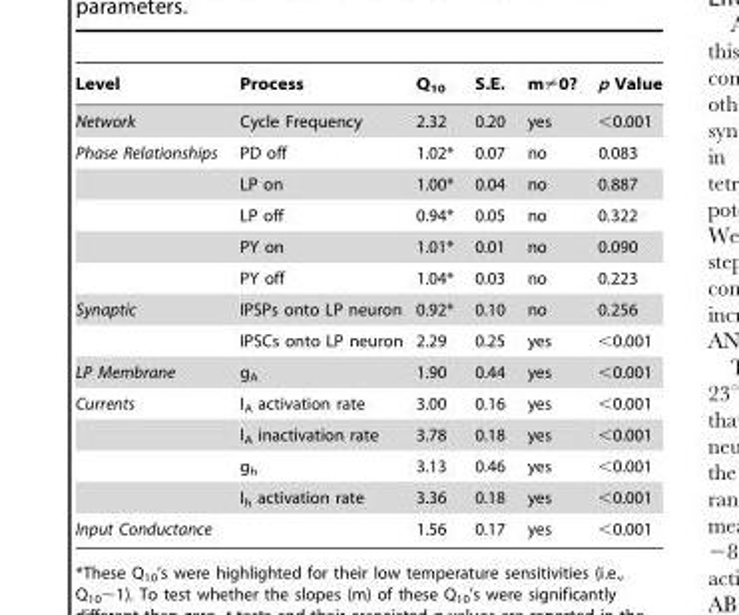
<table><thead><tr><td>Level</td><td>Process</td><td>Q<sub>10</sub></td><td>S.E.</td><td>m≠0?</td><td>p Value</td></tr></thead><tbody><tr><td>Network</td><td>Cycle Frequency</td><td>2.32</td><td>0.20</td><td>yes</td><td>&lt;0.001</td></tr><tr><td rowspan="5">Phase Relationships</td><td>PD off</td><td>1.02*</td><td>0.07</td><td>no</td><td>0.083</td></tr><tr><td>LP on</td><td>1.00*</td><td>0.04</td><td>no</td><td>0.887</td></tr><tr><td>LP off</td><td>0.94*</td><td>0.05</td><td>no</td><td>0.322</td></tr><tr><td>PY on</td><td>1.01*</td><td>0.01</td><td>no</td><td>0.090</td></tr><tr><td>PY off</td><td>1.04*</td><td>0.03</td><td>no</td><td>0.223</td></tr><tr><td rowspan="2">Synaptic</td><td>IPSPs onto LP neuron</td><td>0.92*</td><td>0.10</td><td>no</td><td>0.256</td></tr><tr><td>IPSCs onto LP neuron</td><td>2.29</td><td>0.25</td><td>yes</td><td>&lt;0.001</td></tr><tr><td>LP Membrane</td><td>g<sub>A</sub></td><td>1.90</td><td>0.44</td><td>yes</td><td>&lt;0.001</td></tr><tr><td rowspan="4">Currents</td><td>I<sub>A</sub> activation rate</td><td>3.00</td><td>0.16</td><td>yes</td><td>&lt;0.001</td></tr><tr><td>I<sub>A</sub> inactivation rate</td><td>3.78</td><td>0.18</td><td>yes</td><td>&lt;0.001</td></tr><tr><td>g<sub>h</sub></td><td>3.13</td><td>0.46</td><td>yes</td><td>&lt;0.001</td></tr><tr><td>I<sub>h</sub> activation rate</td><td>3.36</td><td>0.18</td><td>yes</td><td>&lt;0.001</td></tr><tr><td>Input Conductance</td><td></td><td>1.56</td><td>0.17</td><td>yes</td><td>&lt;0.001</td></tr></tbody></table>